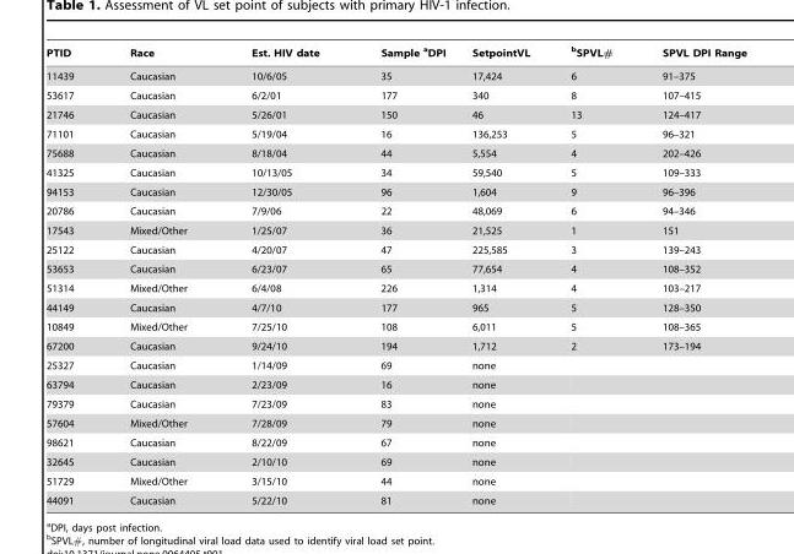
<table><thead><tr><td>PTID</td><td>Race</td><td>Est. HIV date</td><td>Sample aDPI</td><td>SetpointVL</td><td>bSPVL#</td><td>SPVL DPI Range</td></tr></thead><tbody><tr><td>11439</td><td>Caucasian</td><td>10/6/05</td><td>35</td><td>17,424</td><td>6</td><td>91–375</td></tr><tr><td>53617</td><td>Caucasian</td><td>6/2/01</td><td>177</td><td>340</td><td>8</td><td>107–415</td></tr><tr><td>21746</td><td>Caucasian</td><td>5/26/01</td><td>150</td><td>46</td><td>13</td><td>124–417</td></tr><tr><td>71101</td><td>Caucasian</td><td>5/19/04</td><td>16</td><td>136,253</td><td>5</td><td>96–321</td></tr><tr><td>75688</td><td>Caucasian</td><td>8/18/04</td><td>44</td><td>5,554</td><td>4</td><td>202–426</td></tr><tr><td>41325</td><td>Caucasian</td><td>10/13/05</td><td>34</td><td>59,540</td><td>5</td><td>109–333</td></tr><tr><td>94153</td><td>Caucasian</td><td>12/30/05</td><td>96</td><td>1,604</td><td>9</td><td>96–396</td></tr><tr><td>20786</td><td>Caucasian</td><td>7/9/06</td><td>22</td><td>48,069</td><td>6</td><td>94–346</td></tr><tr><td>17543</td><td>Mixed/Other</td><td>1/25/07</td><td>36</td><td>21,525</td><td>1</td><td>151</td></tr><tr><td>25122</td><td>Caucasian</td><td>4/20/07</td><td>47</td><td>225,585</td><td>3</td><td>139–243</td></tr><tr><td>53653</td><td>Caucasian</td><td>6/23/07</td><td>65</td><td>77,654</td><td>4</td><td>108–352</td></tr><tr><td>51314</td><td>Mixed/Other</td><td>6/4/08</td><td>226</td><td>1,314</td><td>4</td><td>103–217</td></tr><tr><td>44149</td><td>Caucasian</td><td>4/7/10</td><td>177</td><td>965</td><td>5</td><td>128–350</td></tr><tr><td>10849</td><td>Mixed/Other</td><td>7/25/10</td><td>108</td><td>6,011</td><td>5</td><td>108–365</td></tr><tr><td>67200</td><td>Caucasian</td><td>9/24/10</td><td>194</td><td>1,712</td><td>2</td><td>173–194</td></tr><tr><td>25327</td><td>Caucasian</td><td>1/14/09</td><td>69</td><td>none</td><td></td><td></td></tr><tr><td>63794</td><td>Caucasian</td><td>2/23/09</td><td>16</td><td>none</td><td></td><td></td></tr><tr><td>79379</td><td>Caucasian</td><td>7/23/09</td><td>83</td><td>none</td><td></td><td></td></tr><tr><td>57604</td><td>Mixed/Other</td><td>7/28/09</td><td>79</td><td>none</td><td></td><td></td></tr><tr><td>98621</td><td>Caucasian</td><td>8/22/09</td><td>67</td><td>none</td><td></td><td></td></tr><tr><td>32645</td><td>Caucasian</td><td>2/10/10</td><td>69</td><td>none</td><td></td><td></td></tr><tr><td>51729</td><td>Mixed/Other</td><td>3/15/10</td><td>44</td><td>none</td><td></td><td></td></tr><tr><td>44091</td><td>Caucasian</td><td>5/22/10</td><td>81</td><td>none</td><td></td><td></td></tr></tbody></table>